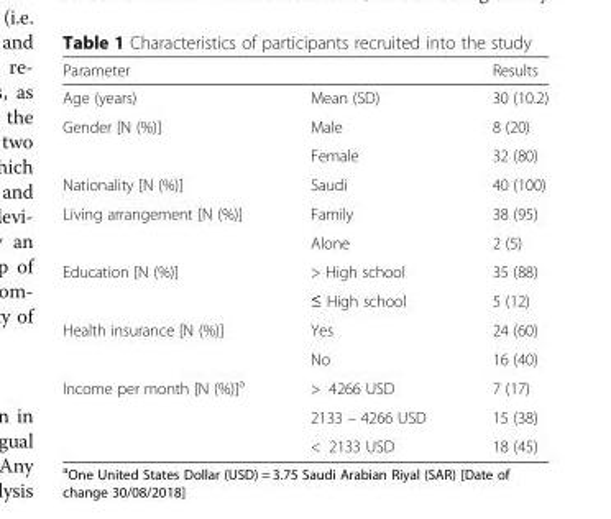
<table><thead><tr><td colspan="2">Parameter</td><td rowspan="2">Results 30 (10.2)</td></tr><tr><td>Age (years)</td><td>Mean (SD)</td></tr></thead><tbody><tr><td rowspan="2">Gender [N (%)]</td><td>Male</td><td>8 (20)</td></tr><tr><td>Female</td><td>32 (80)</td></tr><tr><td>Nationality [N (%)]</td><td>Saudi</td><td>40 (100)</td></tr><tr><td rowspan="2">Living arrangement [N (%)]</td><td>Family</td><td>38 (95)</td></tr><tr><td>Alone</td><td>2 (5)</td></tr><tr><td rowspan="2">Education [N (%)]</td><td>&gt; High school</td><td>35 (88)</td></tr><tr><td>≤ High school</td><td>5 (12)</td></tr><tr><td rowspan="2">Health insurance [N (%)]</td><td>Yes</td><td>24 (60)</td></tr><tr><td>No</td><td>16 (40)</td></tr><tr><td rowspan="3">Income per month [N (%)]<sup>a</sup></td><td>&gt; 4266 USD</td><td>7 (17)</td></tr><tr><td>2133 – 4266 USD</td><td>15 (38)</td></tr><tr><td>&lt; 2133 USD</td><td>18 (45)</td></tr></tbody></table>